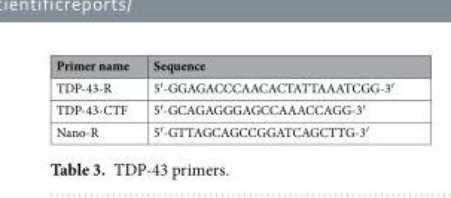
<table><thead><tr><td>Primer name</td><td>Sequence</td></tr></thead><tbody><tr><td>TDP-43-R</td><td>5′-GGAGACCCAACACTATTAAATCGG-3′</td></tr><tr><td>TDP-43-CTF</td><td>5′-GCAGAGGGAGCCAAACCAGG-3′</td></tr><tr><td>Nano-R</td><td>5′-GTTAGCAGCCGGATCAGCTTG-3′</td></tr></tbody></table>